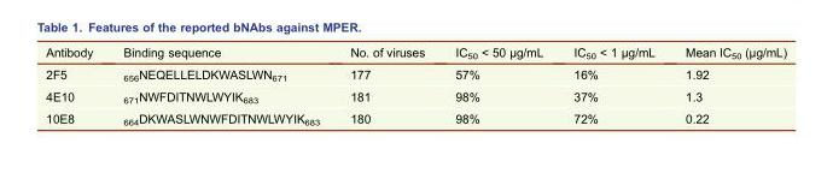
<table><thead><tr><td>Antibody</td><td>Binding sequence</td><td>No. of viruses</td><td>IC<sub>50</sub> &lt; 50 μg/mL</td><td>IC<sub>50</sub> &lt; 1 μg/mL</td><td>Mean IC<sub>50</sub> (μg/mL)</td></tr></thead><tbody><tr><td>2F5</td><td><sub>656</sub>NEQELLELDKWASLWN<sub>671</sub></td><td>177</td><td>57%</td><td>16%</td><td>1.92</td></tr><tr><td>4E10</td><td><sub>671</sub>NWFDITNWLWYIK<sub>683</sub></td><td>181</td><td>98%</td><td>37%</td><td>1.3</td></tr><tr><td>10E8</td><td><sub>664</sub>DKWASLWNWFDITNWLWYIK<sub>683</sub></td><td>180</td><td>98%</td><td>72%</td><td>0.22</td></tr></tbody></table>